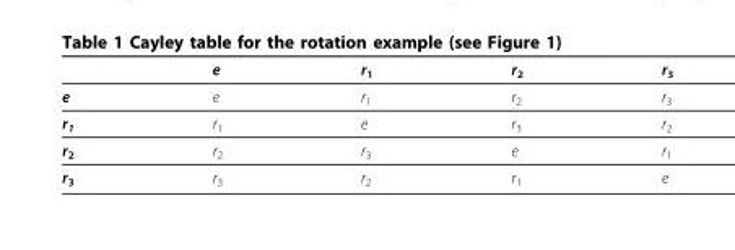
<table><thead><tr><td></td><td>e</td><td>r<sub>1</sub></td><td>r<sub>2</sub></td><td>r<sub>3</sub></td></tr></thead><tbody><tr><td>e</td><td>e</td><td>r<sub>1</sub></td><td>r<sub>2</sub></td><td>r<sub>3</sub></td></tr><tr><td>r<sub>1</sub></td><td>r<sub>1</sub></td><td>e</td><td>r<sub>3</sub></td><td>r<sub>2</sub></td></tr><tr><td>r<sub>2</sub></td><td>r<sub>2</sub></td><td>r<sub>3</sub></td><td>e</td><td>r<sub>1</sub></td></tr><tr><td>r<sub>3</sub></td><td>r<sub>3</sub></td><td>r<sub>2</sub></td><td>r<sub>1</sub></td><td>e</td></tr></tbody></table>